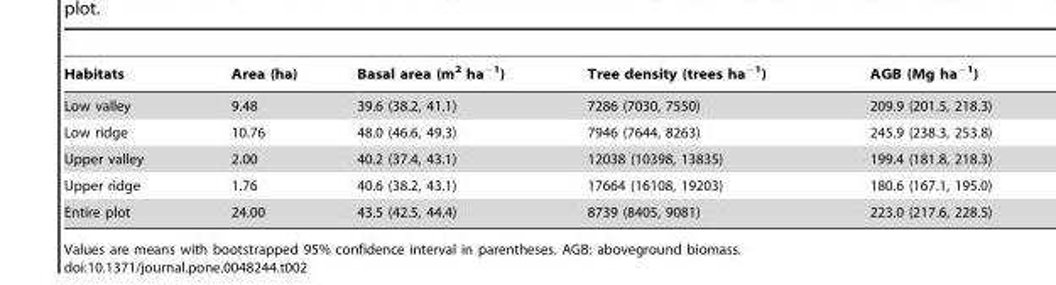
<table><thead><tr><td>Habitats</td><td>Area (ha)</td><td>Basal area (m<sup>2</sup> ha<sup>−1</sup>)</td><td>Tree density (trees ha<sup>−1</sup>)</td><td>AGB (Mg ha<sup>−1</sup>)</td></tr></thead><tbody><tr><td>Low valley</td><td>9.48</td><td>39.6 (38.2, 41.1)</td><td>7286 (7030, 7550)</td><td>209.9 (201.5, 218.3)</td></tr><tr><td>Low ridge</td><td>10.76</td><td>48.0 (46.6, 49.3)</td><td>7946 (7644, 8263)</td><td>245.9 (238.3, 253.8)</td></tr><tr><td>Upper valley</td><td>2.00</td><td>40.2 (37.4, 43.1)</td><td>12038 (10398, 13835)</td><td>199.4 (181.8, 218.3)</td></tr><tr><td>Upper ridge</td><td>1.76</td><td>40.6 (38.2, 43.1)</td><td>17664 (16108, 19203)</td><td>180.6 (167.1, 195.0)</td></tr><tr><td>Entire plot</td><td>24.00</td><td>43.5 (42.5, 44.4)</td><td>8739 (8405, 9081)</td><td>223.0 (217.6, 228.5)</td></tr></tbody></table>